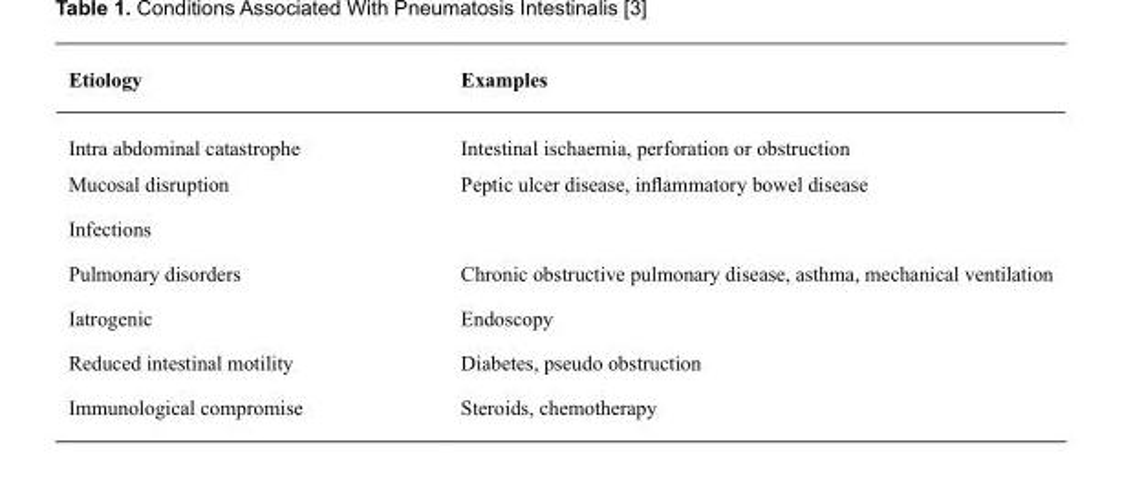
<table><thead><tr><td>Etiology</td><td>Examples</td></tr></thead><tbody><tr><td>Intra abdominal catastrophe</td><td>Intestinal ischaemia, perforation or obstruction</td></tr><tr><td>Mucosal disruption</td><td>Peptic ulcer disease, inflammatory bowel disease</td></tr><tr><td colspan="2">Infections</td></tr><tr><td>Pulmonary disorders</td><td>Chronic obstructive pulmonary disease, asthma, mechanical ventilation</td></tr><tr><td>Iatrogenic</td><td>Endoscopy</td></tr><tr><td>Reduced intestinal motility</td><td>Diabetes, pseudo obstruction</td></tr><tr><td>Immunological compromise</td><td>Steroids, chemotherapy</td></tr></tbody></table>